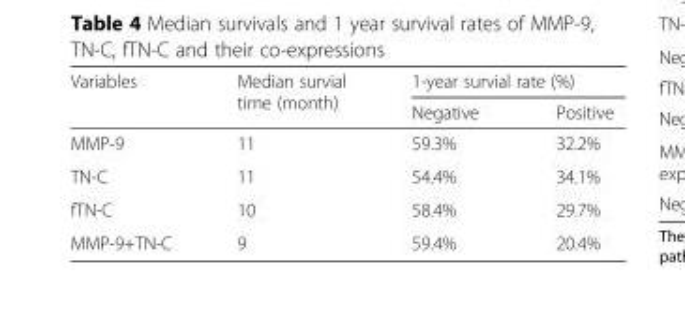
<table><thead><tr><td rowspan="2">Variables</td><td rowspan="2">Median survial time (month)</td><td colspan="2">1-year survial rate (%)</td></tr><tr><td>Negative</td><td>Positive</td></tr></thead><tbody><tr><td>MMP-9</td><td>11</td><td>59.3%</td><td>32.2%</td></tr><tr><td>TN-C</td><td>11</td><td>54.4%</td><td>34.1%</td></tr><tr><td>fTN-C</td><td>10</td><td>58.4%</td><td>29.7%</td></tr><tr><td>MMP-9+TN-C</td><td>9</td><td>59.4%</td><td>20.4%</td></tr></tbody></table>